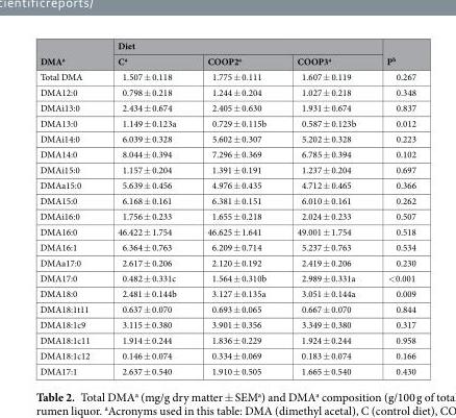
<table><thead><tr><td rowspan="2">DMA<sup>a</sup></td><td colspan="3">Diet</td><td rowspan="2">P<sup>b</sup></td></tr><tr><td>C<sup>a</sup></td><td>COOP2<sup>a</sup></td><td>COOP3<sup>a</sup></td></tr></thead><tbody><tr><td>Total DMA</td><td>1.507 ± 0.118</td><td>1.775 ± 0.111</td><td>1.607 ± 0.119</td><td>0.267</td></tr><tr><td>DMA12:0</td><td>0.798 ± 0.218</td><td>1.244 ± 0.204</td><td>1.027 ± 0.218</td><td>0.348</td></tr><tr><td>DMAi13:0</td><td>2.434 ± 0.674</td><td>2.405 ± 0.630</td><td>1.931 ± 0.674</td><td>0.837</td></tr><tr><td>DMA13:0</td><td>1.149 ± 0.123a</td><td>0.729 ± 0.115b</td><td>0.587 ± 0.123b</td><td>0.012</td></tr><tr><td>DMAi14:0</td><td>6.039 ± 0.328</td><td>5.602 ± 0.307</td><td>5.202 ± 0.328</td><td>0.223</td></tr><tr><td>DMA14:0</td><td>8.044 ± 0.394</td><td>7.296 ± 0.369</td><td>6.785 ± 0.394</td><td>0.102</td></tr><tr><td>DMAi15:0</td><td>1.157 ± 0.204</td><td>1.391 ± 0.191</td><td>1.237 ± 0.204</td><td>0.697</td></tr><tr><td>DMAa15:0</td><td>5.639 ± 0.456</td><td>4.976 ± 0.435</td><td>4.712 ± 0.465</td><td>0.366</td></tr><tr><td>DMA15:0</td><td>6.168 ± 0.161</td><td>6.381 ± 0.151</td><td>6.010 ± 0.161</td><td>0.262</td></tr><tr><td>DMAi16:0</td><td>1.756 ± 0.233</td><td>1.655 ± 0.218</td><td>2.024 ± 0.233</td><td>0.507</td></tr><tr><td>DMA16:0</td><td>46.422 ± 1.754</td><td>46.625 ± 1.641</td><td>49.001 ± 1.754</td><td>0.518</td></tr><tr><td>DMA16:1</td><td>6.364 ± 0.763</td><td>6.209 ± 0.714</td><td>5.237 ± 0.763</td><td>0.534</td></tr><tr><td>DMAa17:0</td><td>2.617 ± 0.206</td><td>2.120 ± 0.192</td><td>2.419 ± 0.206</td><td>0.230</td></tr><tr><td>DMA17:0</td><td>0.482 ± 0.331c</td><td>1.564 ± 0.310b</td><td>2.989 ± 0.331a</td><td>&lt;0.001</td></tr><tr><td>DMA18:0</td><td>2.481 ± 0.144b</td><td>3.127 ± 0.135a</td><td>3.051 ± 0.144a</td><td>0.009</td></tr><tr><td>DMA18:1t11</td><td>0.637 ± 0.070</td><td>0.693 ± 0.065</td><td>0.667 ± 0.070</td><td>0.844</td></tr><tr><td>DMA18:1c9</td><td>3.115 ± 0.380</td><td>3.901 ± 0.356</td><td>3.349 ± 0.380</td><td>0.317</td></tr><tr><td>DMA18:1c11</td><td>1.914 ± 0.244</td><td>1.836 ± 0.229</td><td>1.924 ± 0.244</td><td>0.958</td></tr><tr><td>DMA18:1c12</td><td>0.146 ± 0.074</td><td>0.334 ± 0.069</td><td>0.183 ± 0.074</td><td>0.166</td></tr><tr><td>DMA17:1</td><td>2.637 ± 0.540</td><td>1.910 ± 0.505</td><td>1.665 ± 0.540</td><td>0.430</td></tr></tbody></table>